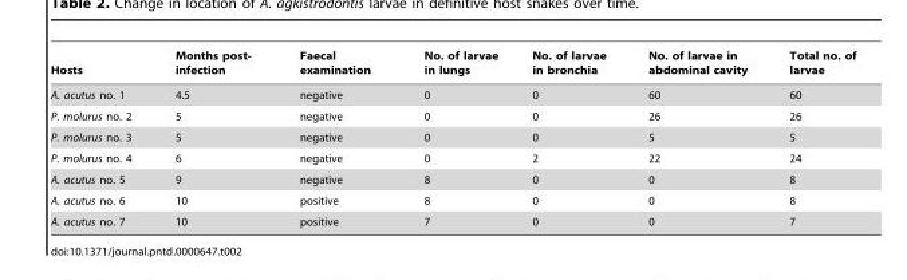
<table><thead><tr><td>Hosts</td><td>Months post- infection</td><td>Faecal examination</td><td>No. of larvae in lungs</td><td>No. of larvae in bronchia</td><td>No. of larvae in abdominal cavity</td><td>Total no. of larvae</td></tr></thead><tbody><tr><td>A. acutus no. 1</td><td>4.5</td><td>negative</td><td>0</td><td>0</td><td>60</td><td>60</td></tr><tr><td>P. molurus no. 2</td><td>5</td><td>negative</td><td>0</td><td>0</td><td>26</td><td>26</td></tr><tr><td>P. molurus no. 3</td><td>5</td><td>negative</td><td>0</td><td>0</td><td>5</td><td>5</td></tr><tr><td>P. molurus no. 4</td><td>6</td><td>negative</td><td>0</td><td>2</td><td>22</td><td>24</td></tr><tr><td>A. acutus no. 5</td><td>9</td><td>negative</td><td>8</td><td>0</td><td>0</td><td>8</td></tr><tr><td>A. acutus no. 6</td><td>10</td><td>positive</td><td>8</td><td>0</td><td>0</td><td>8</td></tr><tr><td>A. acutus no. 7</td><td>10</td><td>positive</td><td>7</td><td>0</td><td>0</td><td>7</td></tr></tbody></table>